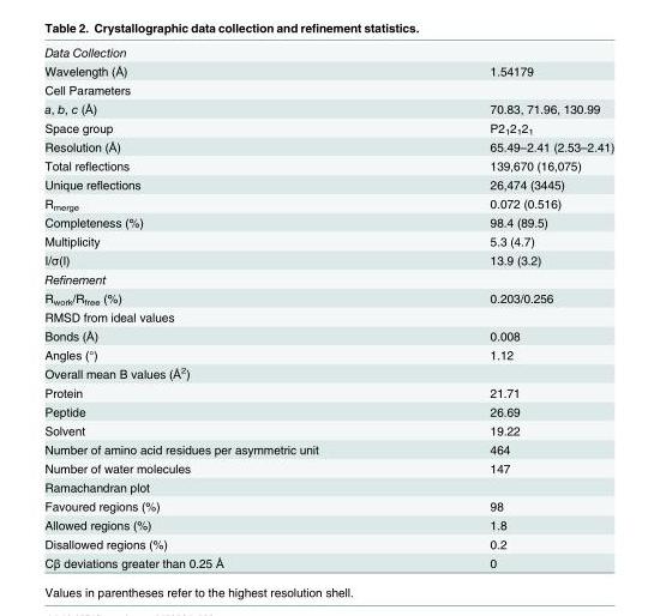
<table><tbody><tr><td colspan="2">Data Collection</td></tr><tr><td>Wavelength (Å)</td><td>1.54179</td></tr><tr><td colspan="2">Cell Parameters</td></tr><tr><td>a, b, c (Å)</td><td>70.83, 71.96, 130.99</td></tr><tr><td>Space group</td><td>P2<sub>1</sub>2<sub>1</sub>2<sub>1</sub></td></tr><tr><td>Resolution (Å)</td><td>65.49–2.41 (2.53–2.41)</td></tr><tr><td>Total reflections</td><td>139,670 (16,075)</td></tr><tr><td>Unique reflections</td><td>26,474 (3445)</td></tr><tr><td>R<sub>merge</sub></td><td>0.072 (0.516)</td></tr><tr><td>Completeness (%)</td><td>98.4 (89.5)</td></tr><tr><td>Multiplicity</td><td>5.3 (4.7)</td></tr><tr><td>I/σ(I)</td><td>13.9 (3.2)</td></tr><tr><td colspan="2">Refinement</td></tr><tr><td>R<sub>work</sub>/R<sub>free</sub> (%)</td><td>0.203/0.256</td></tr><tr><td colspan="2">RMSD from ideal values</td></tr><tr><td>Bonds (Å)</td><td>0.008</td></tr><tr><td>Angles (°)</td><td>1.12</td></tr><tr><td colspan="2">Overall mean B values (Å<sup>2</sup>)</td></tr><tr><td>Protein</td><td>21.71</td></tr><tr><td>Peptide</td><td>26.69</td></tr><tr><td>Solvent</td><td>19.22</td></tr><tr><td>Number of amino acid residues per asymmetric unit</td><td>464</td></tr><tr><td>Number of water molecules</td><td>147</td></tr><tr><td colspan="2">Ramachandran plot</td></tr><tr><td>Favoured regions (%)</td><td>98</td></tr><tr><td>Allowed regions (%)</td><td>1.8</td></tr><tr><td>Disallowed regions (%)</td><td>0.2</td></tr><tr><td>Cβ deviations greater than 0.25 Å</td><td>0</td></tr></tbody></table>